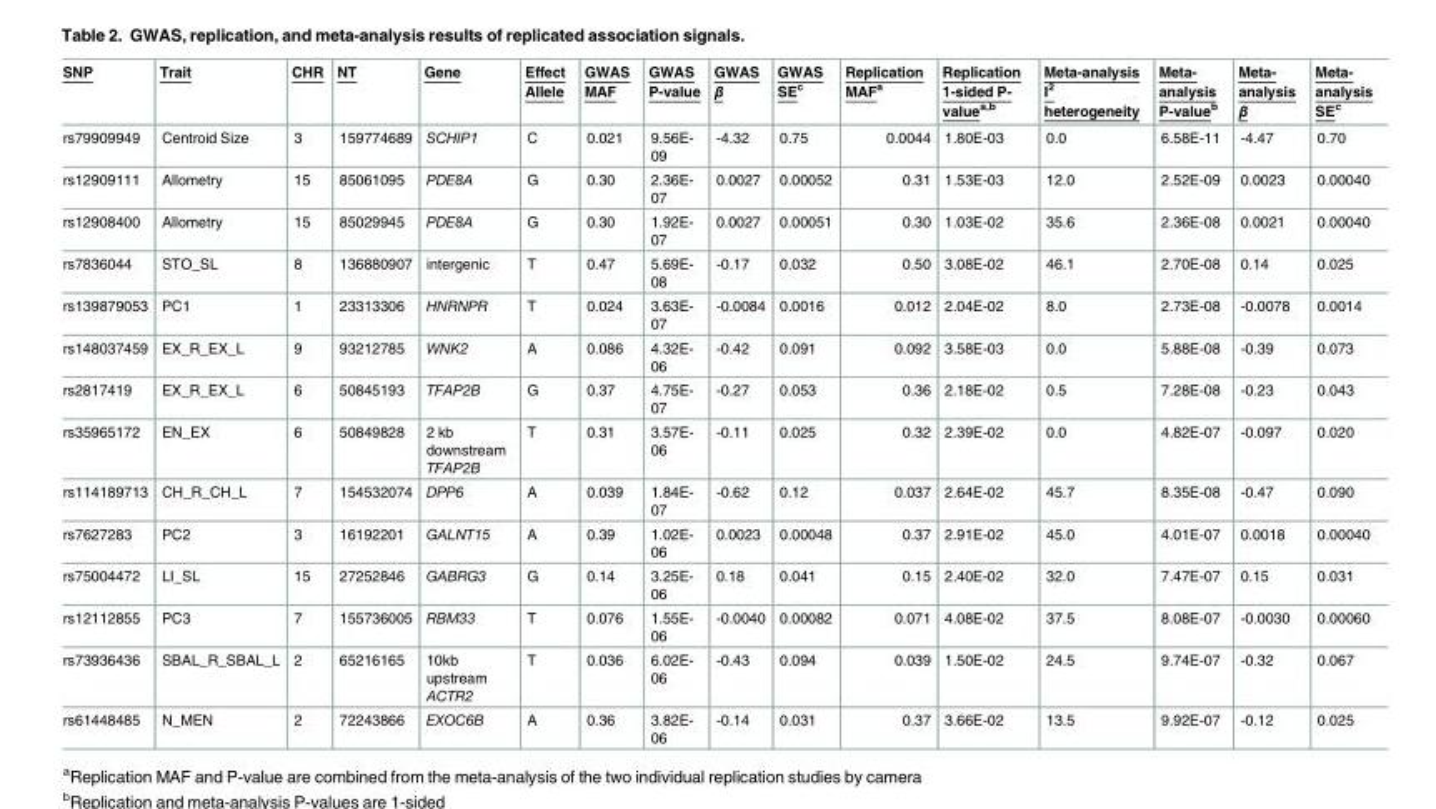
<table><thead><tr><td>SNP</td><td>Trait</td><td>CHR</td><td>NT</td><td>Gene</td><td>Effect Allele</td><td>GWAS MAF</td><td>GWAS P-value</td><td>GWAS β</td><td>GWAS SE<sup>c</sup></td><td>Replication MAF<sup>a</sup></td><td>Replication 1-sided P- value<sup>a,b</sup></td><td>Meta-analysis I<sup>2</sup> heterogeneity</td><td>Meta- analysis P-value<sup>b</sup></td><td>Meta- analysis β</td><td>Meta- analysis SE<sup>c</sup></td></tr></thead><tbody><tr><td>rs79909949</td><td>Centroid Size</td><td>3</td><td>159774689</td><td>SCHIP1</td><td>C</td><td>0.021</td><td>9.56E- 09</td><td>-4.32</td><td>0.75</td><td>0.0044</td><td>1.80E-03</td><td>0.0</td><td>6.58E-11</td><td>-4.47</td><td>0.70</td></tr><tr><td>rs12909111</td><td>Allometry</td><td>15</td><td>85061095</td><td>PDE8A</td><td>G</td><td>0.30</td><td>2.36E- 07</td><td>0.0027</td><td>0.00052</td><td>0.31</td><td>1.53E-03</td><td>12.0</td><td>2.52E-09</td><td>0.0023</td><td>0.00040</td></tr><tr><td>rs12908400</td><td>Allometry</td><td>15</td><td>85029945</td><td>PDE8A</td><td>G</td><td>0.30</td><td>1.92E- 07</td><td>0.0027</td><td>0.00051</td><td>0.30</td><td>1.03E-02</td><td>35.6</td><td>2.36E-08</td><td>0.0021</td><td>0.00040</td></tr><tr><td>rs7836044</td><td>STO_SL</td><td>8</td><td>136880907</td><td>intergenic</td><td>T</td><td>0.47</td><td>5.69E- 08</td><td>-0.17</td><td>0.032</td><td>0.50</td><td>3.08E-02</td><td>46.1</td><td>2.70E-08</td><td>0.14</td><td>0.025</td></tr><tr><td>rs139879053</td><td>PC1</td><td>1</td><td>23313306</td><td>HNRNPR</td><td>T</td><td>0.024</td><td>3.63E- 07</td><td>-0.0084</td><td>0.0016</td><td>0.012</td><td>2.04E-02</td><td>8.0</td><td>2.73E-08</td><td>-0.0078</td><td>0.0014</td></tr><tr><td>rs148037459</td><td>EX_R_EX_L</td><td>9</td><td>93212785</td><td>WNK2</td><td>A</td><td>0.086</td><td>4.32E- 06</td><td>-0.42</td><td>0.091</td><td>0.092</td><td>3.58E-03</td><td>0.0</td><td>5.88E-08</td><td>-0.39</td><td>0.073</td></tr><tr><td>rs2817419</td><td>EX_R_EX_L</td><td>6</td><td>50845193</td><td>TFAP2B</td><td>G</td><td>0.37</td><td>4.75E- 07</td><td>-0.27</td><td>0.053</td><td>0.36</td><td>2.18E-02</td><td>0.5</td><td>7.28E-08</td><td>-0.23</td><td>0.043</td></tr><tr><td>rs35965172</td><td>EN_EX</td><td>6</td><td>50849828</td><td>2 kb downstream TFAP2B</td><td>T</td><td>0.31</td><td>3.57E- 06</td><td>-0.11</td><td>0.025</td><td>0.32</td><td>2.39E-02</td><td>0.0</td><td>4.82E-07</td><td>-0.097</td><td>0.020</td></tr><tr><td>rs114189713</td><td>CH_R_CH_L</td><td>7</td><td>154532074</td><td>DPP6</td><td>A</td><td>0.039</td><td>1.84E- 07</td><td>-0.62</td><td>0.12</td><td>0.037</td><td>2.64E-02</td><td>45.7</td><td>8.35E-08</td><td>-0.47</td><td>0.090</td></tr><tr><td>rs7627283</td><td>PC2</td><td>3</td><td>16192201</td><td>GALNT15</td><td>A</td><td>0.39</td><td>1.02E- 06</td><td>0.0023</td><td>0.00048</td><td>0.37</td><td>2.91E-02</td><td>45.0</td><td>4.01E-07</td><td>0.0018</td><td>0.00040</td></tr><tr><td>rs75004472</td><td>LI_SL</td><td>15</td><td>27252846</td><td>GABRG3</td><td>G</td><td>0.14</td><td>3.25E- 06</td><td>0.18</td><td>0.041</td><td>0.15</td><td>2.40E-02</td><td>32.0</td><td>7.47E-07</td><td>0.15</td><td>0.031</td></tr><tr><td>rs12112855</td><td>PC3</td><td>7</td><td>155736005</td><td>RBM33</td><td>T</td><td>0.076</td><td>1.55E- 06</td><td>-0.0040</td><td>0.00082</td><td>0.071</td><td>4.08E-02</td><td>37.5</td><td>8.08E-07</td><td>-0.0030</td><td>0.00060</td></tr><tr><td>rs73936436</td><td>SBAL_R_SBAL_L</td><td>2</td><td>65216165</td><td>10kb upstream ACTR2</td><td>T</td><td>0.036</td><td>6.02E- 06</td><td>-0.43</td><td>0.094</td><td>0.039</td><td>1.50E-02</td><td>24.5</td><td>9.74E-07</td><td>-0.32</td><td>0.067</td></tr><tr><td>rs61448485</td><td>N_MEN</td><td>2</td><td>72243866</td><td>EXOC6B</td><td>A</td><td>0.36</td><td>3.82E- 06</td><td>-0.14</td><td>0.031</td><td>0.37</td><td>3.66E-02</td><td>13.5</td><td>9.92E-07</td><td>-0.12</td><td>0.025</td></tr></tbody></table>